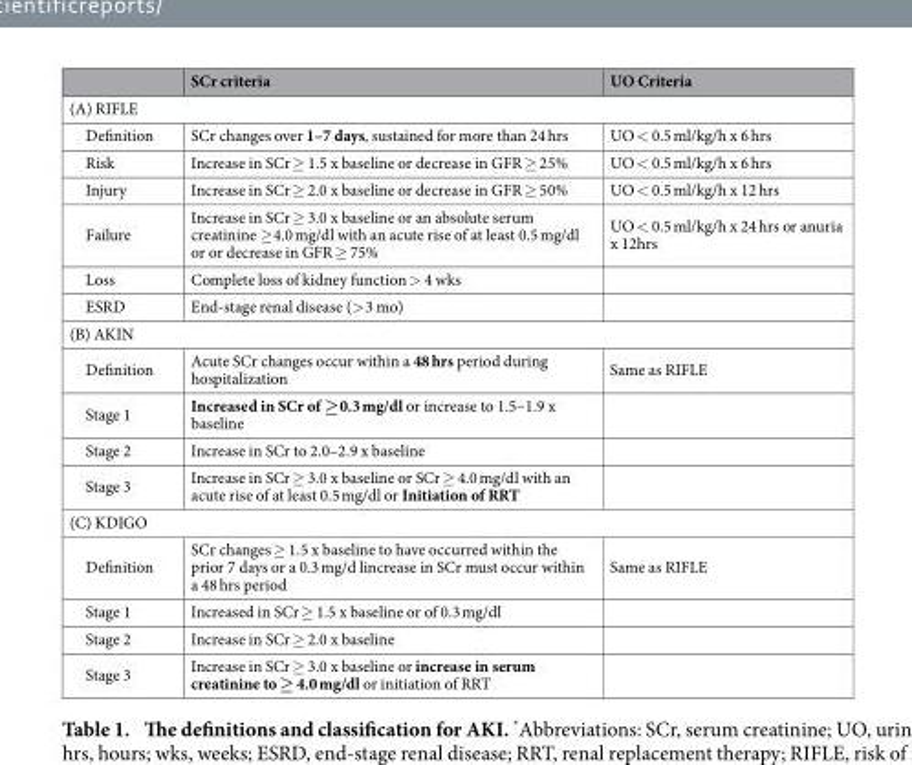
<table><thead><tr><td></td><td>SCr criteria</td><td>UO Criteria</td></tr></thead><tbody><tr><td colspan="3">(A) RIFLE</td></tr><tr><td>Definition</td><td>SCr changes over 1–7 days, sustained for more than 24 hrs</td><td>UO &lt; 0.5 ml/kg/h x 6 hrs</td></tr><tr><td>Risk</td><td>Increase in SCr ≥ 1.5 x baseline or decrease in GFR ≥ 25%</td><td>UO &lt; 0.5 ml/kg/h x 6 hrs</td></tr><tr><td>Injury</td><td>Increase in SCr ≥ 2.0 x baseline or decrease in GFR ≥ 50%</td><td>UO &lt; 0.5 ml/kg/h x 12 hrs</td></tr><tr><td>Failure</td><td>Increase in SCr ≥ 3.0 x baseline or an absolute serum creatinine ≥ 4.0 mg/dl with an acute rise of at least 0.5 mg/dl or or decrease in GFR ≥ 75%</td><td>UO &lt; 0.5 ml/kg/h x 24 hrs or anuria x 12hrs</td></tr><tr><td>Loss</td><td>Complete loss of kidney function &gt; 4 wks</td><td></td></tr><tr><td>ESRD</td><td>End-stage renal disease (&gt; 3 mo)</td><td></td></tr><tr><td colspan="3">(B) AKIN</td></tr><tr><td>Definition</td><td>Acute SCr changes occur within a 48 hrs period during hospitalization</td><td>Same as RIFLE</td></tr><tr><td>Stage 1</td><td>Increased in SCr of ≥ 0.3 mg/dl or increase to 1.5–1.9 x baseline</td><td></td></tr><tr><td>Stage 2</td><td>Increase in SCr to 2.0–2.9 x baseline</td><td></td></tr><tr><td>Stage 3</td><td>Increase in SCr ≥ 3.0 x baseline or SCr ≥ 4.0 mg/dl with an acute rise of at least 0.5 mg/dl or Initiation of RRT</td><td></td></tr><tr><td colspan="3">(C) KDIGO</td></tr><tr><td>Definition</td><td>SCr changes ≥ 1.5 x baseline to have occurred within the prior 7 days or a 0.3 mg/d lincrease in SCr must occur within a 48 hrs period</td><td>Same as RIFLE</td></tr><tr><td>Stage 1</td><td>Increased in SCr ≥ 1.5 x baseline or of 0.3 mg/dl</td><td></td></tr><tr><td>Stage 2</td><td>Increase in SCr ≥ 2.0 x baseline</td><td></td></tr><tr><td>Stage 3</td><td>Increase in SCr ≥ 3.0 x baseline or increase in serum creatinine to ≥ 4.0 mg/dl or initiation of RRT</td><td></td></tr></tbody></table>